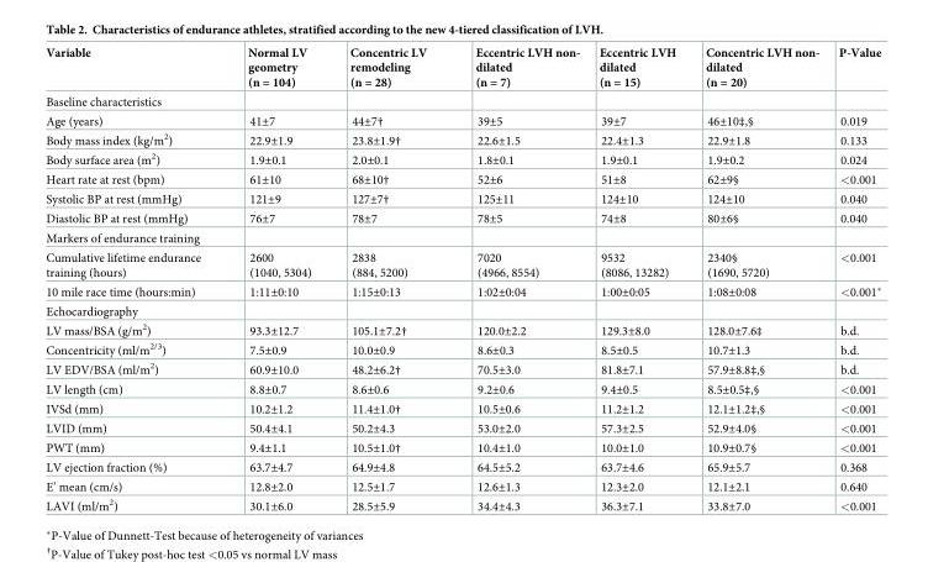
<table><thead><tr><td>Variable</td><td>Normal LV geometry (n = 104)</td><td>Concentric LV remodeling (n = 28)</td><td>Eccentric LVH non- dilated (n = 7)</td><td>Eccentric LVH dilated (n = 15)</td><td>Concentric LVH non- dilated (n = 20)</td><td>P-Value</td></tr></thead><tbody><tr><td colspan="7">Baseline characteristics</td></tr><tr><td>Age (years)</td><td>41±7</td><td>44±7†</td><td>39±5</td><td>39±7</td><td>46±10‡,§</td><td>0.019</td></tr><tr><td>Body mass index (kg/m<sup>2</sup>)</td><td>22.9±1.9</td><td>23.8±1.9†</td><td>22.6±1.5</td><td>22.4±1.3</td><td>22.9±1.8</td><td>0.133</td></tr><tr><td>Body surface area (m<sup>2</sup>)</td><td>1.9±0.1</td><td>2.0±0.1</td><td>1.8±0.1</td><td>1.9±0.1</td><td>1.9±0.2</td><td>0.024</td></tr><tr><td>Heart rate at rest (bpm)</td><td>61±10</td><td>68±10†</td><td>52±6</td><td>51±8</td><td>62±9§</td><td>&lt;0.001</td></tr><tr><td>Systolic BP at rest (mmHg)</td><td>121±9</td><td>127±7†</td><td>125±11</td><td>124±10</td><td>124±10</td><td>0.040</td></tr><tr><td>Diastolic BP at rest (mmHg)</td><td>76±7</td><td>78±7</td><td>78±5</td><td>74±8</td><td>80±6§</td><td>0.040</td></tr><tr><td colspan="7">Markers of endurance training</td></tr><tr><td>Cumulative lifetime endurance training (hours)</td><td>2600 (1040, 5304)</td><td>2838 (884, 5200)</td><td>7020 (4966, 8554)</td><td>9532 (8086, 13282)</td><td>2340§ (1690, 5720)</td><td>&lt;0.001</td></tr><tr><td>10 mile race time (hours:min)</td><td>1:11±0:10</td><td>1:15±0:13</td><td>1:02±0:04</td><td>1:00±0:05</td><td>1:08±0:08</td><td>&lt;0.001*</td></tr><tr><td colspan="7">Echocardiography</td></tr><tr><td>LV mass/BSA (g/m<sup>2</sup>)</td><td>93.3±12.7</td><td>105.1±7.2†</td><td>120.0±2.2</td><td>129.3±8.0</td><td>128.0±7.6‡</td><td>b.d.</td></tr><tr><td>Concentricity (ml/m<sup>2/3</sup>)</td><td>7.5±0.9</td><td>10.0±0.9</td><td>8.6±0.3</td><td>8.5±0.5</td><td>10.7±1.3</td><td>b.d.</td></tr><tr><td>LV EDV/BSA (ml/m<sup>2</sup>)</td><td>60.9±10.0</td><td>48.2±6.2†</td><td>70.5±3.0</td><td>81.8±7.1</td><td>57.9±8.8‡,§</td><td>b.d.</td></tr><tr><td>LV length (cm)</td><td>8.8±0.7</td><td>8.6±0.6</td><td>9.2±0.6</td><td>9.4±0.5</td><td>8.5±0.5‡,§</td><td>&lt;0.001</td></tr><tr><td>IVSd (mm)</td><td>10.2±1.2</td><td>11.4±1.0†</td><td>10.5±0.6</td><td>11.2±1.2</td><td>12.1±1.2‡,§</td><td>&lt;0.001</td></tr><tr><td>LVID (mm)</td><td>50.4±4.1</td><td>50.2±4.3</td><td>53.0±2.0</td><td>57.3±2.5</td><td>52.9±4.0§</td><td>&lt;0.001</td></tr><tr><td>PWT (mm)</td><td>9.4±1.1</td><td>10.5±1.0†</td><td>10.4±1.0</td><td>10.0±1.0</td><td>10.9±0.7§</td><td>&lt;0.001</td></tr><tr><td>LV ejection fraction (%)</td><td>63.7±4.7</td><td>64.9±4.8</td><td>64.5±5.2</td><td>63.7±4.6</td><td>65.9±5.7</td><td>0.368</td></tr><tr><td>E’ mean (cm/s)</td><td>12.8±2.0</td><td>12.5±1.7</td><td>12.6±1.3</td><td>12.3±2.0</td><td>12.1±2.1</td><td>0.640</td></tr><tr><td>LAVI (ml/m<sup>2</sup>)</td><td>30.1±6.0</td><td>28.5±5.9</td><td>34.4±4.3</td><td>36.3±7.1</td><td>33.8±7.0</td><td>&lt;0.001</td></tr></tbody></table>